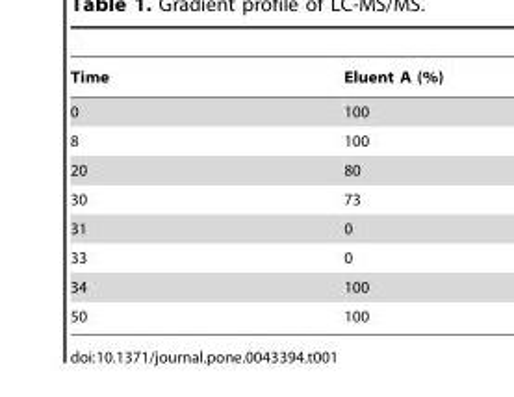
<table><thead><tr><td>Time</td><td>Eluent A (%)</td></tr></thead><tbody><tr><td>0</td><td>100</td></tr><tr><td>8</td><td>100</td></tr><tr><td>20</td><td>80</td></tr><tr><td>30</td><td>73</td></tr><tr><td>31</td><td>0</td></tr><tr><td>33</td><td>0</td></tr><tr><td>34</td><td>100</td></tr><tr><td>50</td><td>100</td></tr></tbody></table>